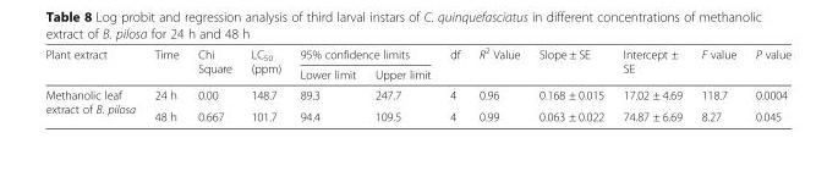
<table><thead><tr><td rowspan="2">Plant extract</td><td rowspan="2">Time</td><td rowspan="2">Chi Square</td><td rowspan="2">LC<sub>50</sub> (ppm)</td><td colspan="2">95% confidence limits</td><td rowspan="2">df</td><td rowspan="2">R<sup>2</sup> Value</td><td rowspan="2">Slope ± SE</td><td rowspan="2">Intercept ± SE</td><td rowspan="2">F value</td><td rowspan="2">P value</td></tr><tr><td>Lower limit</td><td>Upper limit</td></tr></thead><tbody><tr><td rowspan="2">Methanolic leaf extract of B. pilosa</td><td>24 h</td><td>0.00</td><td>148.7</td><td>89.3</td><td>247.7</td><td>4</td><td>0.96</td><td>0.168 ± 0.015</td><td>17.02 ± 4.69</td><td>118.7</td><td>0.0004</td></tr><tr><td>48 h</td><td>0.667</td><td>101.7</td><td>94.4</td><td>109.5</td><td>4</td><td>0.99</td><td>0.063 ± 0.022</td><td>74.87 ± 6.69</td><td>8.27</td><td>0.045</td></tr></tbody></table>